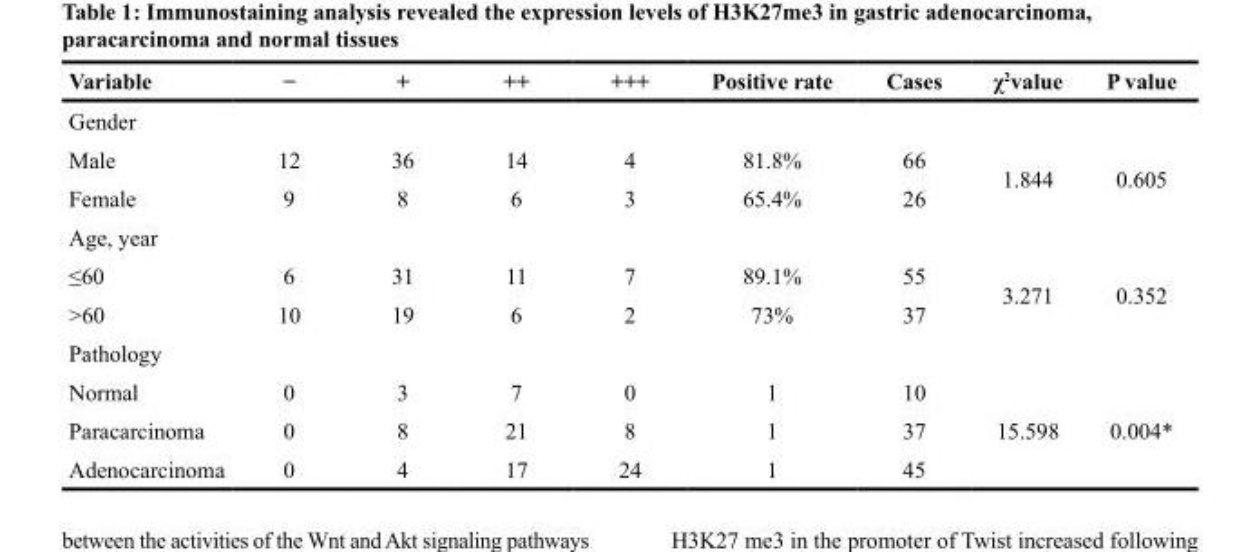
<table><thead><tr><td>Variable</td><td>−</td><td>+</td><td>++</td><td>+++</td><td>Positive rate</td><td>Cases</td><td>χ<sup>2</sup>value</td><td>P value</td></tr></thead><tbody><tr><td colspan="9">Gender</td></tr><tr><td>Male</td><td>12</td><td>36</td><td>14</td><td>4</td><td>81.8%</td><td>66</td><td rowspan="2">1.844</td><td rowspan="2">0.605</td></tr><tr><td>Female</td><td>9</td><td>8</td><td>6</td><td>3</td><td>65.4%</td><td>26</td></tr><tr><td colspan="9">Age, year</td></tr><tr><td>≤60</td><td>6</td><td>31</td><td>11</td><td>7</td><td>89.1%</td><td>55</td><td rowspan="2">3.271</td><td rowspan="2">0.352</td></tr><tr><td>&gt;60</td><td>10</td><td>19</td><td>6</td><td>2</td><td>73%</td><td>37</td></tr><tr><td colspan="9">Pathology</td></tr><tr><td>Normal</td><td>0</td><td>3</td><td>7</td><td>0</td><td>1</td><td>10</td><td rowspan="3">15.598</td><td rowspan="3">0.004*</td></tr><tr><td>Paracarcinoma</td><td>0</td><td>8</td><td>21</td><td>8</td><td>1</td><td>37</td></tr><tr><td>Adenocarcinoma</td><td>0</td><td>4</td><td>17</td><td>24</td><td>1</td><td>45</td></tr></tbody></table>